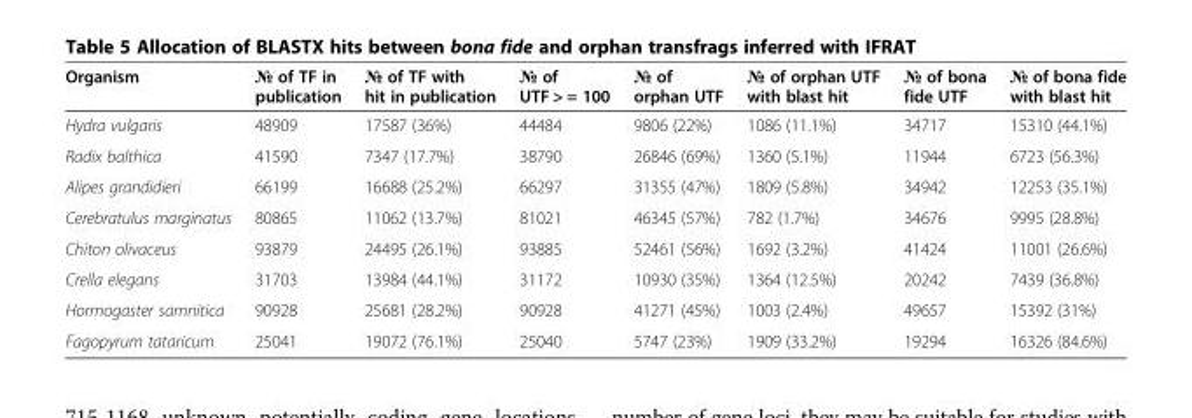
<table><thead><tr><td>Organism</td><td>№ of TF in publication</td><td>№ of TF with hit in publication</td><td>№ of UTF &gt; = 100</td><td>№ of orphan UTF</td><td>№ of orphan UTF with blast hit</td><td>№ of bona fide UTF</td><td>№ of bona fide with blast hit</td></tr></thead><tbody><tr><td>Hydra vulgaris</td><td>48909</td><td>17587 (36%)</td><td>44484</td><td>9806 (22%)</td><td>1086 (11.1%)</td><td>34717</td><td>15310 (44.1%)</td></tr><tr><td>Radix balthica</td><td>41590</td><td>7347 (17.7%)</td><td>38790</td><td>26846 (69%)</td><td>1360 (5.1%)</td><td>11944</td><td>6723 (56.3%)</td></tr><tr><td>Alipes grandidieri</td><td>66199</td><td>16688 (25.2%)</td><td>66297</td><td>31355 (47%)</td><td>1809 (5.8%)</td><td>34942</td><td>12253 (35.1%)</td></tr><tr><td>Cerebratulus marginatus</td><td>80865</td><td>11062 (13.7%)</td><td>81021</td><td>46345 (57%)</td><td>782 (1.7%)</td><td>34676</td><td>9995 (28.8%)</td></tr><tr><td>Chiton olivaceus</td><td>93879</td><td>24495 (26.1%)</td><td>93885</td><td>52461 (56%)</td><td>1692 (3.2%)</td><td>41424</td><td>11001 (26.6%)</td></tr><tr><td>Crella elegans</td><td>31703</td><td>13984 (44.1%)</td><td>31172</td><td>10930 (35%)</td><td>1364 (12.5%)</td><td>20242</td><td>7439 (36.8%)</td></tr><tr><td>Hormogaster samnitica</td><td>90928</td><td>25681 (28.2%)</td><td>90928</td><td>41271 (45%)</td><td>1003 (2.4%)</td><td>49657</td><td>15392 (31%)</td></tr><tr><td>Fagopyrum tataricum</td><td>25041</td><td>19072 (76.1%)</td><td>25040</td><td>5747 (23%)</td><td>1909 (33.2%)</td><td>19294</td><td>16326 (84.6%)</td></tr></tbody></table>